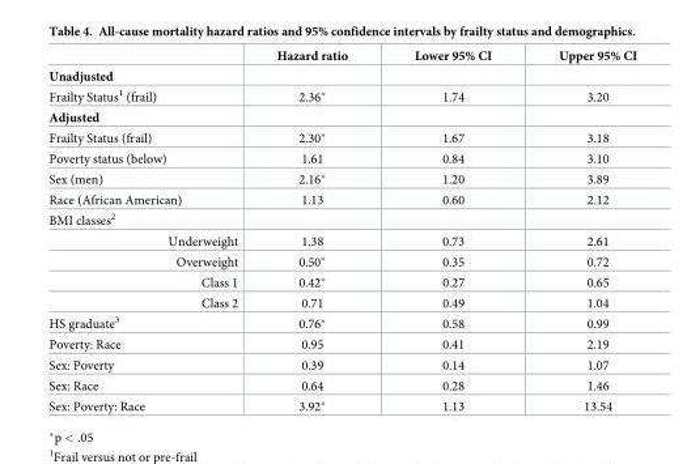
<table><thead><tr><td></td><td>Hazard ratio</td><td>Lower 95% CI</td><td>Upper 95% CI</td></tr></thead><tbody><tr><td colspan="4">Unadjusted</td></tr><tr><td>Frailty Status<sup>1</sup> (frail)</td><td>2.36*</td><td>1.74</td><td>3.20</td></tr><tr><td colspan="4">Adjusted</td></tr><tr><td>Frailty Status (frail)</td><td>2.30*</td><td>1.67</td><td>3.18</td></tr><tr><td>Poverty status (below)</td><td>1.61</td><td>0.84</td><td>3.10</td></tr><tr><td>Sex (men)</td><td>2.16*</td><td>1.20</td><td>3.89</td></tr><tr><td>Race (African American)</td><td>1.13</td><td>0.60</td><td>2.12</td></tr><tr><td colspan="4">BMI classes<sup>2</sup></td></tr><tr><td>Underweight</td><td>1.38</td><td>0.73</td><td>2.61</td></tr><tr><td>Overweight</td><td>0.50*</td><td>0.35</td><td>0.72</td></tr><tr><td>Class 1</td><td>0.42*</td><td>0.27</td><td>0.65</td></tr><tr><td>Class 2</td><td>0.71</td><td>0.49</td><td>1.04</td></tr><tr><td>HS graduate<sup>3</sup></td><td>0.76*</td><td>0.58</td><td>0.99</td></tr><tr><td>Poverty: Race</td><td>0.95</td><td>0.41</td><td>2.19</td></tr><tr><td>Sex: Poverty</td><td>0.39</td><td>0.14</td><td>1.07</td></tr><tr><td>Sex: Race</td><td>0.64</td><td>0.28</td><td>1.46</td></tr><tr><td>Sex: Poverty: Race</td><td>3.92*</td><td>1.13</td><td>13.54</td></tr></tbody></table>